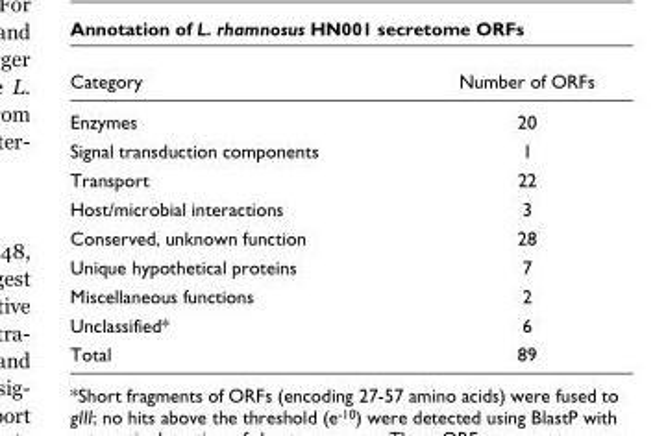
<table><thead><tr><td>Category</td><td>Number of ORFs</td></tr></thead><tbody><tr><td>Enzymes</td><td>20</td></tr><tr><td>Signal transduction components</td><td>1</td></tr><tr><td>Transport</td><td>22</td></tr><tr><td>Host/microbial interactions</td><td>3</td></tr><tr><td>Conserved, unknown function</td><td>28</td></tr><tr><td>Unique hypothetical proteins</td><td>7</td></tr><tr><td>Miscellaneous functions</td><td>2</td></tr><tr><td>Unclassified*</td><td>6</td></tr><tr><td>Total</td><td>89</td></tr></tbody></table>